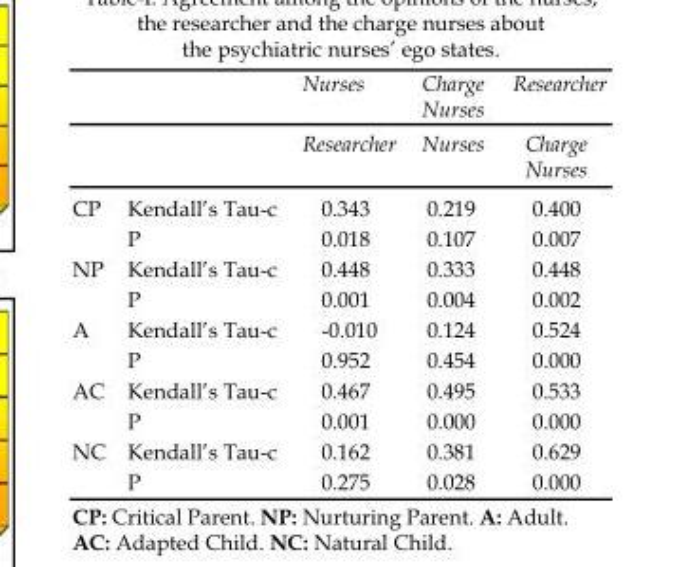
<table><thead><tr><td rowspan="2"></td><td rowspan="2"></td><td rowspan="2">Nurses Researcher</td><td rowspan="2">Charge Nurses Nurses</td><td rowspan="2">Researcher Charge Nurses</td></tr><tr></tr></thead><tbody><tr><td rowspan="2">CP</td><td>Kendall’s Tau-c</td><td>0.343</td><td>0.219</td><td>0.400</td></tr><tr><td>P</td><td>0.018</td><td>0.107</td><td>0.007</td></tr><tr><td rowspan="2">NP</td><td>Kendall’s Tau-c</td><td>0.448</td><td>0.333</td><td>0.448</td></tr><tr><td>P</td><td>0.001</td><td>0.004</td><td>0.002</td></tr><tr><td rowspan="2">A</td><td>Kendall’s Tau-c</td><td>-0.010</td><td>0.124</td><td>0.524</td></tr><tr><td>P</td><td>0.952</td><td>0.454</td><td>0.000</td></tr><tr><td rowspan="2">AC</td><td>Kendall’s Tau-c</td><td>0.467</td><td>0.495</td><td>0.533</td></tr><tr><td>P</td><td>0.001</td><td>0.000</td><td>0.000</td></tr><tr><td rowspan="2">NC</td><td>Kendall’s Tau-c</td><td>0.162</td><td>0.381</td><td>0.629</td></tr><tr><td>P</td><td>0.275</td><td>0.028</td><td>0.000</td></tr></tbody></table>